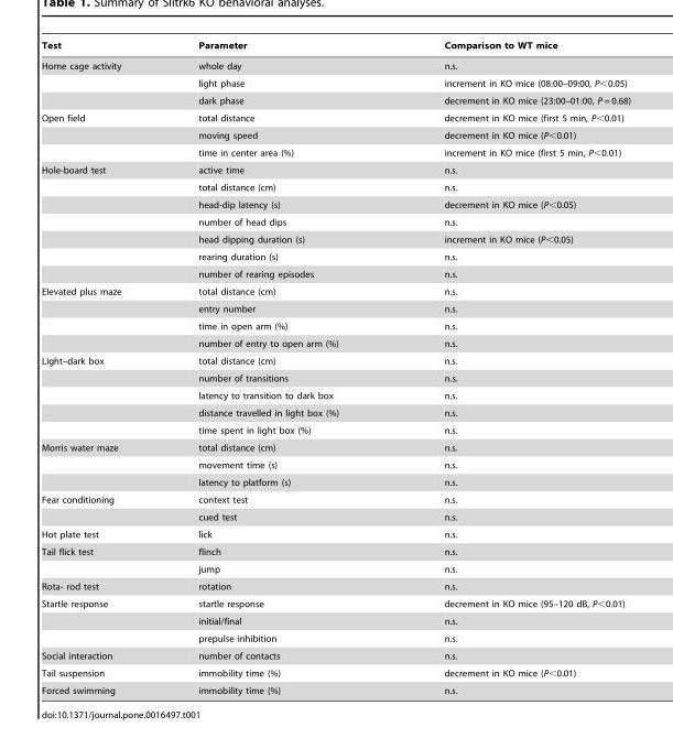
<table><thead><tr><td>Test</td><td>Parameter</td><td>Comparison to WT mice</td></tr></thead><tbody><tr><td rowspan="3">Home cage activity</td><td>whole day</td><td>n.s.</td></tr><tr><td>light phase</td><td>increment in KO mice (08:00–09:00, P&lt;0.05)</td></tr><tr><td>dark phase</td><td>decrement in KO mice (23:00–01:00, P = 0.68)</td></tr><tr><td rowspan="3">Open field</td><td>total distance</td><td>decrement in KO mice (first 5 min, P&lt;0.01)</td></tr><tr><td>moving speed</td><td>decrement in KO mice (P&lt;0.01)</td></tr><tr><td>time in center area (%)</td><td>increment in KO mice (first 5 min, P&lt;0.01)</td></tr><tr><td rowspan="7">Hole-board test</td><td>active time</td><td>n.s.</td></tr><tr><td>total distance (cm)</td><td>n.s.</td></tr><tr><td>head-dip latency (s)</td><td>decrement in KO mice (P&lt;0.05)</td></tr><tr><td>number of head dips</td><td>n.s.</td></tr><tr><td>head dipping duration (s)</td><td>increment in KO mice (P&lt;0.05)</td></tr><tr><td>rearing duration (s)</td><td>n.s.</td></tr><tr><td>number of rearing episodes</td><td>n.s.</td></tr><tr><td rowspan="4">Elevated plus maze</td><td>total distance (cm)</td><td>n.s.</td></tr><tr><td>entry number</td><td>n.s.</td></tr><tr><td>time in open arm (%)</td><td>n.s.</td></tr><tr><td>number of entry to open arm (%)</td><td>n.s.</td></tr><tr><td rowspan="5">Light–dark box</td><td>total distance (cm)</td><td>n.s.</td></tr><tr><td>number of transitions</td><td>n.s.</td></tr><tr><td>latency to transition to dark box</td><td>n.s.</td></tr><tr><td>distance travelled in light box (%)</td><td>n.s.</td></tr><tr><td>time spent in light box (%)</td><td>n.s.</td></tr><tr><td rowspan="3">Morris water maze</td><td>total distance (cm)</td><td>n.s.</td></tr><tr><td>movement time (s)</td><td>n.s.</td></tr><tr><td>latency to platform (s)</td><td>n.s.</td></tr><tr><td rowspan="2">Fear conditioning</td><td>context test</td><td>n.s.</td></tr><tr><td>cued test</td><td>n.s.</td></tr><tr><td>Hot plate test</td><td>lick</td><td>n.s.</td></tr><tr><td rowspan="2">Tail flick test</td><td>flinch</td><td>n.s.</td></tr><tr><td>jump</td><td>n.s.</td></tr><tr><td>Rota- rod test</td><td>rotation</td><td>n.s.</td></tr><tr><td rowspan="3">Startle response</td><td>startle response</td><td>decrement in KO mice (95–120 dB, P&lt;0.01)</td></tr><tr><td>initial/final</td><td>n.s.</td></tr><tr><td>prepulse inhibition</td><td>n.s.</td></tr><tr><td>Social interaction</td><td>number of contacts</td><td>n.s.</td></tr><tr><td>Tail suspension</td><td>immobility time (%)</td><td>decrement in KO mice (P&lt;0.01)</td></tr><tr><td>Forced swimming</td><td>immobility time (%)</td><td>n.s.</td></tr></tbody></table>